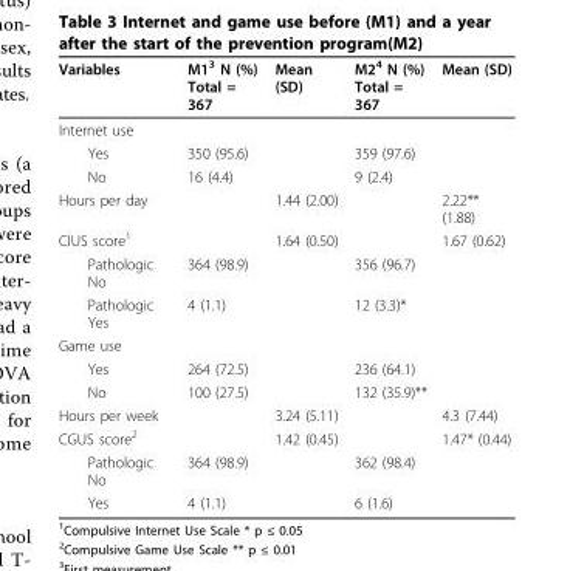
<table><thead><tr><td>Variables</td><td>M1<sup>3</sup> N (%) Total = 367</td><td>Mean (SD)</td><td>M2<sup>4</sup> N (%) Total = 367</td><td>Mean (SD)</td></tr></thead><tbody><tr><td colspan="5">Internet use</td></tr><tr><td>Yes</td><td>350 (95.6)</td><td></td><td>359 (97.6)</td><td></td></tr><tr><td>No</td><td>16 (4.4)</td><td></td><td>9 (2.4)</td><td></td></tr><tr><td>Hours per day</td><td></td><td>1.44 (2.00)</td><td></td><td>2.22** (1.88)</td></tr><tr><td>CIUS score<sup>1</sup></td><td></td><td>1.64 (0.50)</td><td></td><td>1.67 (0.62)</td></tr><tr><td>Pathologic No</td><td>364 (98.9)</td><td></td><td>356 (96.7)</td><td></td></tr><tr><td>Pathologic Yes</td><td>4 (1.1)</td><td></td><td>12 (3.3)*</td><td></td></tr><tr><td colspan="5">Game use</td></tr><tr><td>Yes</td><td>264 (72.5)</td><td></td><td>236 (64.1)</td><td></td></tr><tr><td>No</td><td>100 (27.5)</td><td></td><td>132 (35.9)**</td><td></td></tr><tr><td>Hours per week</td><td></td><td>3.24 (5.11)</td><td></td><td>4.3 (7.44)</td></tr><tr><td>CGUS score<sup>2</sup></td><td></td><td>1.42 (0.45)</td><td></td><td>1.47* (0.44)</td></tr><tr><td>Pathologic No</td><td>364 (98.9)</td><td></td><td>362 (98.4)</td><td></td></tr><tr><td>Yes</td><td>4 (1.1)</td><td></td><td>6 (1.6)</td><td></td></tr></tbody></table>